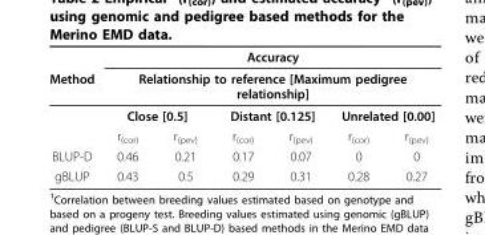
<table><thead><tr><td rowspan="4">Method</td><td rowspan="2" colspan="6">Accuracy Relationship to reference [Maximum pedigree relationship]</td></tr><tr></tr><tr><td colspan="2">Close [0.5]</td><td colspan="2">Distant [0.125]</td><td colspan="2">Unrelated [0.00]</td></tr><tr><td>r<sub>(cor)</sub></td><td>r<sub>(pev)</sub></td><td>r<sub>(cor)</sub></td><td>r<sub>(pev)</sub></td><td>r<sub>(cor)</sub></td><td>r<sub>(pev)</sub></td></tr></thead><tbody><tr><td>BLUP-D</td><td>0.46</td><td>0.21</td><td>0.17</td><td>0.07</td><td>0</td><td>0</td></tr><tr><td>gBLUP</td><td>0.43</td><td>0.5</td><td>0.29</td><td>0.31</td><td>0.28</td><td>0.27</td></tr></tbody></table>